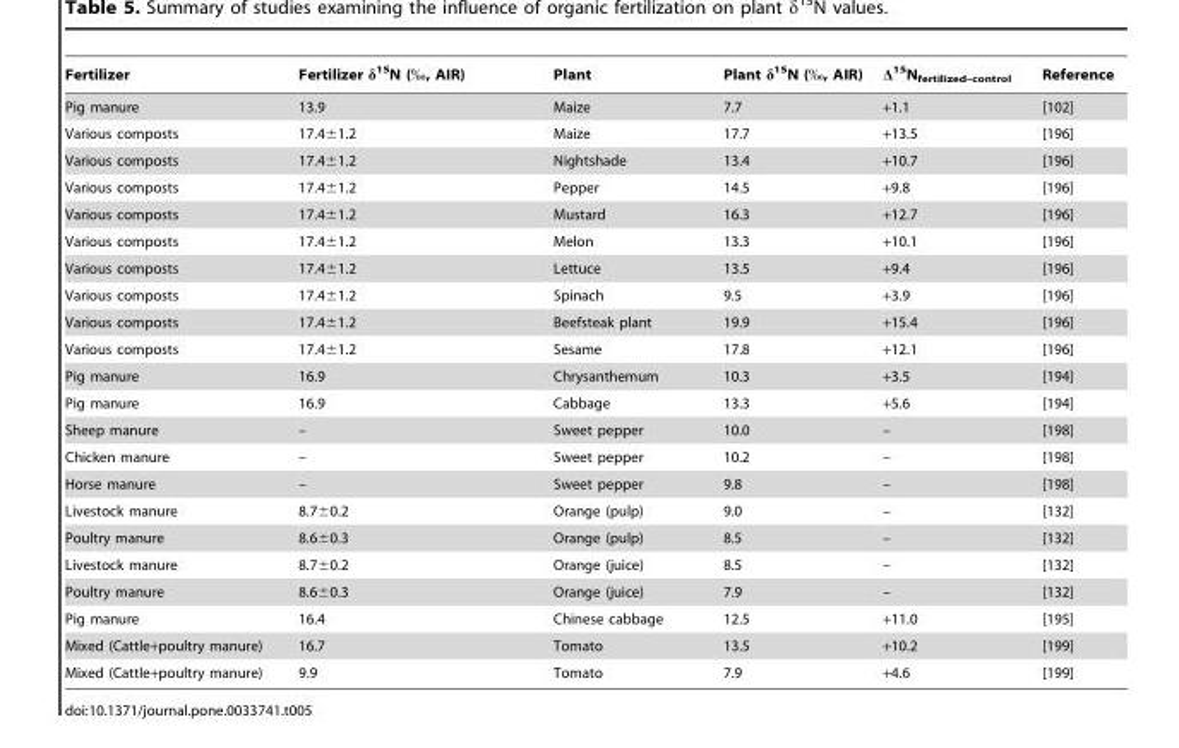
<table><thead><tr><td>Fertilizer</td><td>Fertilizer δ<sup>15</sup>N (‰, AIR)</td><td>Plant</td><td>Plant δ<sup>15</sup>N (‰, AIR)</td><td>Δ<sup>15</sup>N<sub>fertilized–control</sub></td><td>Reference</td></tr></thead><tbody><tr><td>Pig manure</td><td>13.9</td><td>Maize</td><td>7.7</td><td>+1.1</td><td>[102]</td></tr><tr><td>Various composts</td><td>17.4±1.2</td><td>Maize</td><td>17.7</td><td>+13.5</td><td>[196]</td></tr><tr><td>Various composts</td><td>17.4±1.2</td><td>Nightshade</td><td>13.4</td><td>+10.7</td><td>[196]</td></tr><tr><td>Various composts</td><td>17.4±1.2</td><td>Pepper</td><td>14.5</td><td>+9.8</td><td>[196]</td></tr><tr><td>Various composts</td><td>17.4±1.2</td><td>Mustard</td><td>16.3</td><td>+12.7</td><td>[196]</td></tr><tr><td>Various composts</td><td>17.4±1.2</td><td>Melon</td><td>13.3</td><td>+10.1</td><td>[196]</td></tr><tr><td>Various composts</td><td>17.4±1.2</td><td>Lettuce</td><td>13.5</td><td>+9.4</td><td>[196]</td></tr><tr><td>Various composts</td><td>17.4±1.2</td><td>Spinach</td><td>9.5</td><td>+3.9</td><td>[196]</td></tr><tr><td>Various composts</td><td>17.4±1.2</td><td>Beefsteak plant</td><td>19.9</td><td>+15.4</td><td>[196]</td></tr><tr><td>Various composts</td><td>17.4±1.2</td><td>Sesame</td><td>17.8</td><td>+12.1</td><td>[196]</td></tr><tr><td>Pig manure</td><td>16.9</td><td>Chrysanthemum</td><td>10.3</td><td>+3.5</td><td>[194]</td></tr><tr><td>Pig manure</td><td>16.9</td><td>Cabbage</td><td>13.3</td><td>+5.6</td><td>[194]</td></tr><tr><td>Sheep manure</td><td>–</td><td>Sweet pepper</td><td>10.0</td><td>–</td><td>[198]</td></tr><tr><td>Chicken manure</td><td>–</td><td>Sweet pepper</td><td>10.2</td><td>–</td><td>[198]</td></tr><tr><td>Horse manure</td><td>–</td><td>Sweet pepper</td><td>9.8</td><td>–</td><td>[198]</td></tr><tr><td>Livestock manure</td><td>8.7±0.2</td><td>Orange (pulp)</td><td>9.0</td><td>–</td><td>[132]</td></tr><tr><td>Poultry manure</td><td>8.6±0.3</td><td>Orange (pulp)</td><td>8.5</td><td>–</td><td>[132]</td></tr><tr><td>Livestock manure</td><td>8.7±0.2</td><td>Orange (juice)</td><td>8.5</td><td>–</td><td>[132]</td></tr><tr><td>Poultry manure</td><td>8.6±0.3</td><td>Orange (juice)</td><td>7.9</td><td>–</td><td>[132]</td></tr><tr><td>Pig manure</td><td>16.4</td><td>Chinese cabbage</td><td>12.5</td><td>+11.0</td><td>[195]</td></tr><tr><td>Mixed (Cattle+poultry manure)</td><td>16.7</td><td>Tomato</td><td>13.5</td><td>+10.2</td><td>[199]</td></tr><tr><td>Mixed (Cattle+poultry manure)</td><td>9.9</td><td>Tomato</td><td>7.9</td><td>+4.6</td><td>[199]</td></tr></tbody></table>